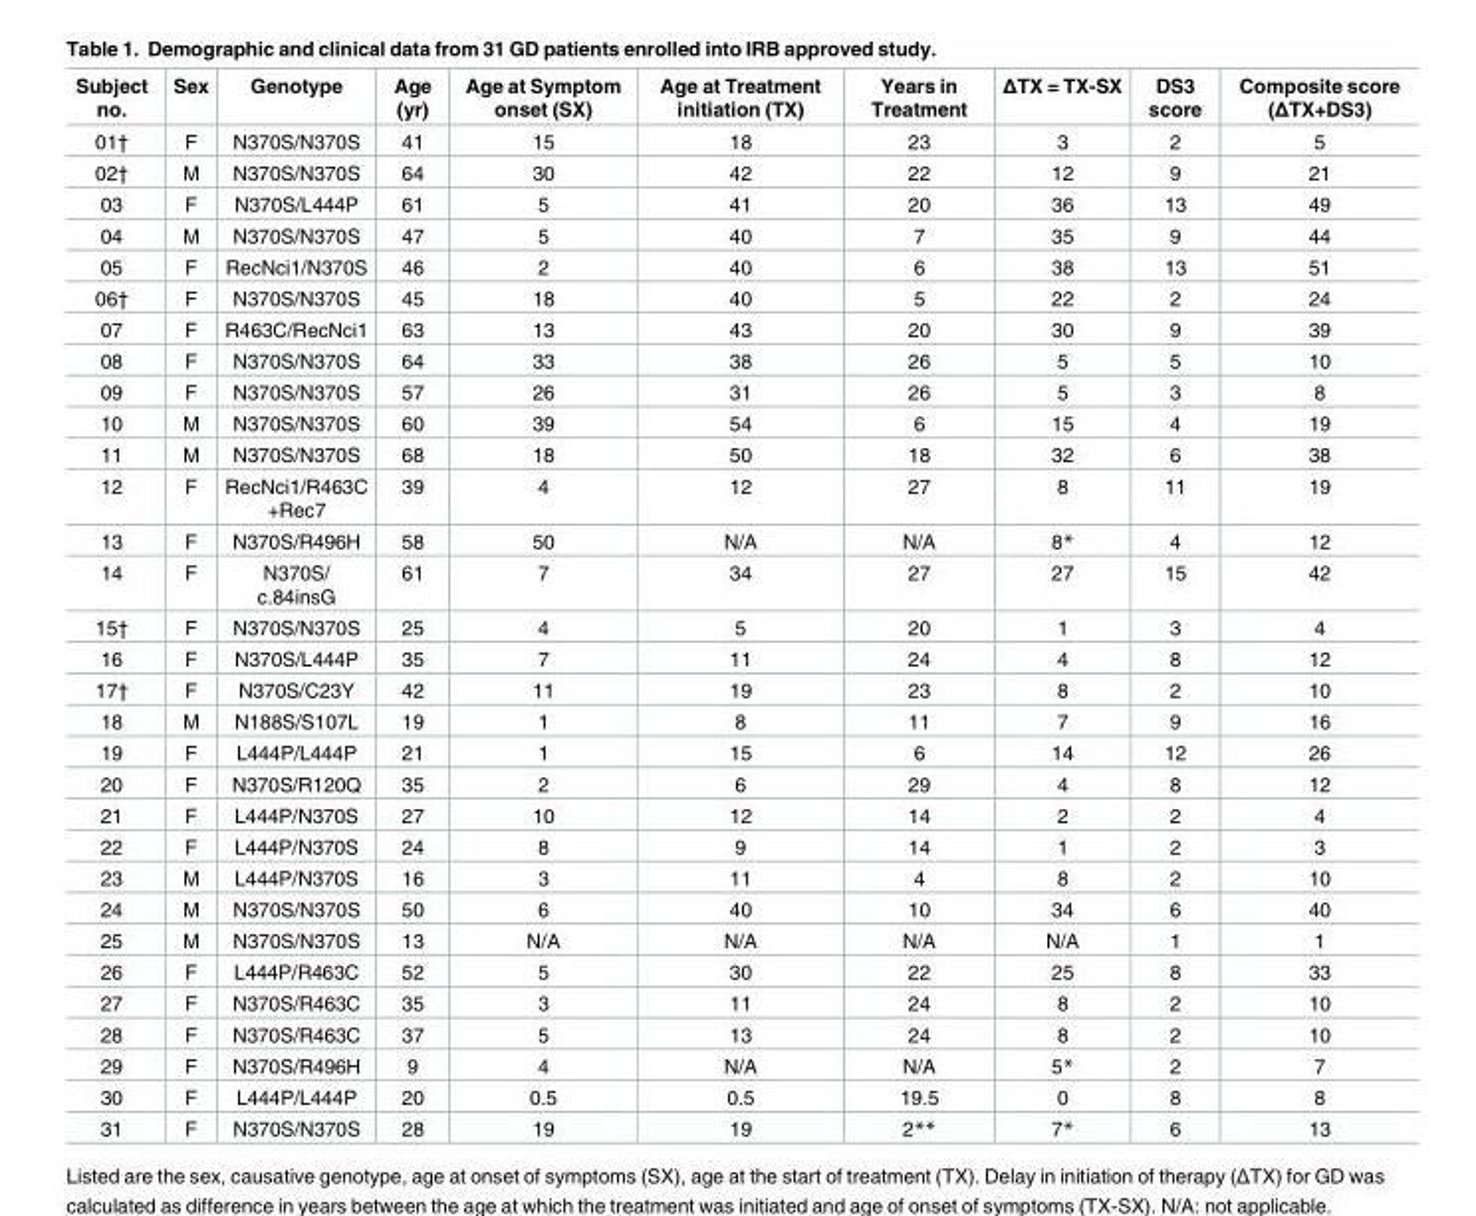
<table><thead><tr><td>Subject no.</td><td>Sex</td><td>Genotype</td><td>Age (yr)</td><td>Age at Symptom onset (SX)</td><td>Age at Treatment initiation (TX)</td><td>Years in Treatment</td><td>ΔTX = TX-SX</td><td>DS3 score</td><td>Composite score (ΔTX+DS3)</td></tr></thead><tbody><tr><td>01†</td><td>F</td><td>N370S/N370S</td><td>41</td><td>15</td><td>18</td><td>23</td><td>3</td><td>2</td><td>5</td></tr><tr><td>02†</td><td>M</td><td>N370S/N370S</td><td>64</td><td>30</td><td>42</td><td>22</td><td>12</td><td>9</td><td>21</td></tr><tr><td>03</td><td>F</td><td>N370S/L444P</td><td>61</td><td>5</td><td>41</td><td>20</td><td>36</td><td>13</td><td>49</td></tr><tr><td>04</td><td>M</td><td>N370S/N370S</td><td>47</td><td>5</td><td>40</td><td>7</td><td>35</td><td>9</td><td>44</td></tr><tr><td>05</td><td>F</td><td>RecNci1/N370S</td><td>46</td><td>2</td><td>40</td><td>6</td><td>38</td><td>13</td><td>51</td></tr><tr><td>06†</td><td>F</td><td>N370S/N370S</td><td>45</td><td>18</td><td>40</td><td>5</td><td>22</td><td>2</td><td>24</td></tr><tr><td>07</td><td>F</td><td>R463C/RecNci1</td><td>63</td><td>13</td><td>43</td><td>20</td><td>30</td><td>9</td><td>39</td></tr><tr><td>08</td><td>F</td><td>N370S/N370S</td><td>64</td><td>33</td><td>38</td><td>26</td><td>5</td><td>5</td><td>10</td></tr><tr><td>09</td><td>F</td><td>N370S/N370S</td><td>57</td><td>26</td><td>31</td><td>26</td><td>5</td><td>3</td><td>8</td></tr><tr><td>10</td><td>M</td><td>N370S/N370S</td><td>60</td><td>39</td><td>54</td><td>6</td><td>15</td><td>4</td><td>19</td></tr><tr><td>11</td><td>M</td><td>N370S/N370S</td><td>68</td><td>18</td><td>50</td><td>18</td><td>32</td><td>6</td><td>38</td></tr><tr><td>12</td><td>F</td><td>RecNci1/R463C +Rec7</td><td>39</td><td>4</td><td>12</td><td>27</td><td>8</td><td>11</td><td>19</td></tr><tr><td>13</td><td>F</td><td>N370S/R496H</td><td>58</td><td>50</td><td>N/A</td><td>N/A</td><td>8*</td><td>4</td><td>12</td></tr><tr><td>14</td><td>F</td><td>N370S/ c.84insG</td><td>61</td><td>7</td><td>34</td><td>27</td><td>27</td><td>15</td><td>42</td></tr><tr><td>15†</td><td>F</td><td>N370S/N370S</td><td>25</td><td>4</td><td>5</td><td>20</td><td>1</td><td>3</td><td>4</td></tr><tr><td>16</td><td>F</td><td>N370S/L444P</td><td>35</td><td>7</td><td>11</td><td>24</td><td>4</td><td>8</td><td>12</td></tr><tr><td>17†</td><td>F</td><td>N370S/C23Y</td><td>42</td><td>11</td><td>19</td><td>23</td><td>8</td><td>2</td><td>10</td></tr><tr><td>18</td><td>M</td><td>N188S/S107L</td><td>19</td><td>1</td><td>8</td><td>11</td><td>7</td><td>9</td><td>16</td></tr><tr><td>19</td><td>F</td><td>L444P/L444P</td><td>21</td><td>1</td><td>15</td><td>6</td><td>14</td><td>12</td><td>26</td></tr><tr><td>20</td><td>F</td><td>N370S/R120Q</td><td>35</td><td>2</td><td>6</td><td>29</td><td>4</td><td>8</td><td>12</td></tr><tr><td>21</td><td>F</td><td>L444P/N370S</td><td>27</td><td>10</td><td>12</td><td>14</td><td>2</td><td>2</td><td>4</td></tr><tr><td>22</td><td>F</td><td>L444P/N370S</td><td>24</td><td>8</td><td>9</td><td>14</td><td>1</td><td>2</td><td>3</td></tr><tr><td>23</td><td>M</td><td>L444P/N370S</td><td>16</td><td>3</td><td>11</td><td>4</td><td>8</td><td>2</td><td>10</td></tr><tr><td>24</td><td>M</td><td>N370S/N370S</td><td>50</td><td>6</td><td>40</td><td>10</td><td>34</td><td>6</td><td>40</td></tr><tr><td>25</td><td>M</td><td>N370S/N370S</td><td>13</td><td>N/A</td><td>N/A</td><td>N/A</td><td>N/A</td><td>1</td><td>1</td></tr><tr><td>26</td><td>F</td><td>L444P/R463C</td><td>52</td><td>5</td><td>30</td><td>22</td><td>25</td><td>8</td><td>33</td></tr><tr><td>27</td><td>F</td><td>N370S/R463C</td><td>35</td><td>3</td><td>11</td><td>24</td><td>8</td><td>2</td><td>10</td></tr><tr><td>28</td><td>F</td><td>N370S/R463C</td><td>37</td><td>5</td><td>13</td><td>24</td><td>8</td><td>2</td><td>10</td></tr><tr><td>29</td><td>F</td><td>N370S/R496H</td><td>9</td><td>4</td><td>N/A</td><td>N/A</td><td>5*</td><td>2</td><td>7</td></tr><tr><td>30</td><td>F</td><td>L444P/L444P</td><td>20</td><td>0.5</td><td>0.5</td><td>19.5</td><td>0</td><td>8</td><td>8</td></tr><tr><td>31</td><td>F</td><td>N370S/N370S</td><td>28</td><td>19</td><td>19</td><td>2**</td><td>7*</td><td>6</td><td>13</td></tr></tbody></table>